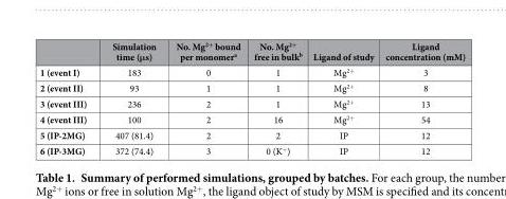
<table><thead><tr><td></td><td>Simulation time (μs)</td><td>No. Mg<sup>2+</sup> bound per monomer<sup>a</sup></td><td>No. Mg<sup>2+</sup> free in bulk<sup>b</sup></td><td>Ligand of study</td><td>Ligand concentration (mM)</td></tr></thead><tbody><tr><td>1 (event I)</td><td>183</td><td>0</td><td>1</td><td>Mg<sup>2+</sup></td><td>3</td></tr><tr><td>2 (event II)</td><td>93</td><td>1</td><td>1</td><td>Mg<sup>2+</sup></td><td>8</td></tr><tr><td>3 (event III)</td><td>236</td><td>2</td><td>1</td><td>Mg<sup>2+</sup></td><td>13</td></tr><tr><td>4 (event III)</td><td>100</td><td>2</td><td>16</td><td>Mg<sup>2+</sup></td><td>54</td></tr><tr><td>5 (IP-2MG)</td><td>407 (81.4)</td><td>2</td><td>2</td><td>IP</td><td>12</td></tr><tr><td>6 (IP-3MG)</td><td>372 (74.4)</td><td>3</td><td>0 (K<sup>+</sup>)</td><td>IP</td><td>12</td></tr></tbody></table>